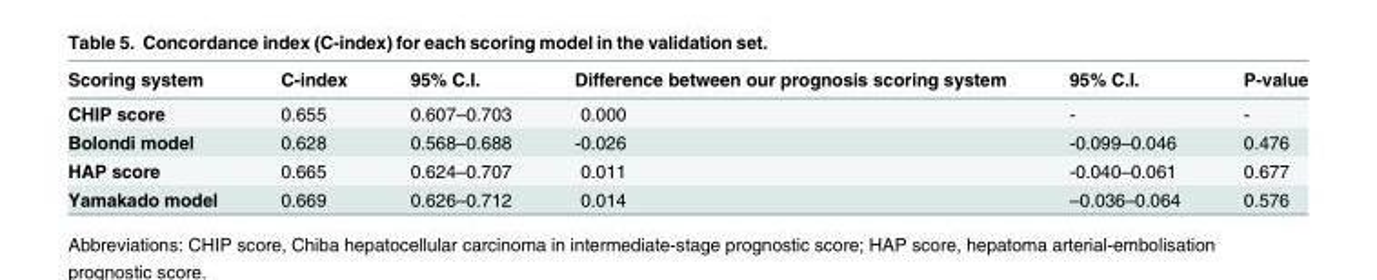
<table><thead><tr><td>Scoring system</td><td>C-index</td><td>95% C.I.</td><td>Difference between our prognosis scoring system</td><td>95% C.I.</td><td>P-value</td></tr></thead><tbody><tr><td>CHIP score</td><td>0.655</td><td>0.607–0.703</td><td>0.000</td><td>-</td><td>-</td></tr><tr><td>Bolondi model</td><td>0.628</td><td>0.568–0.688</td><td>-0.026</td><td>-0.099–0.046</td><td>0.476</td></tr><tr><td>HAP score</td><td>0.665</td><td>0.624–0.707</td><td>0.011</td><td>-0.040–0.061</td><td>0.677</td></tr><tr><td>Yamakado model</td><td>0.669</td><td>0.626–0.712</td><td>0.014</td><td>–0.036–0.064</td><td>0.576</td></tr></tbody></table>